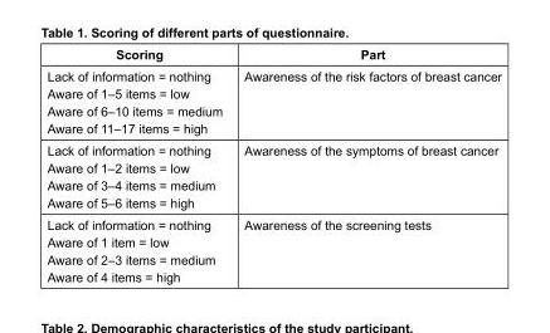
<table><thead><tr><td>Scoring</td><td>Part</td></tr></thead><tbody><tr><td>Lack of information = nothing Aware of 1–5 items = low Aware of 6–10 items = medium Aware of 11–17 items = high</td><td>Awareness of the risk factors of breast cancer</td></tr><tr><td>Lack of information = nothing Aware of 1–2 items = low Aware of 3–4 items = medium Aware of 5–6 items = high</td><td>Awareness of the symptoms of breast cancer</td></tr><tr><td>Lack of information = nothing Aware of 1 item = low Aware of 2–3 items = medium Aware of 4 items = high</td><td>Awareness of the screening tests</td></tr></tbody></table>